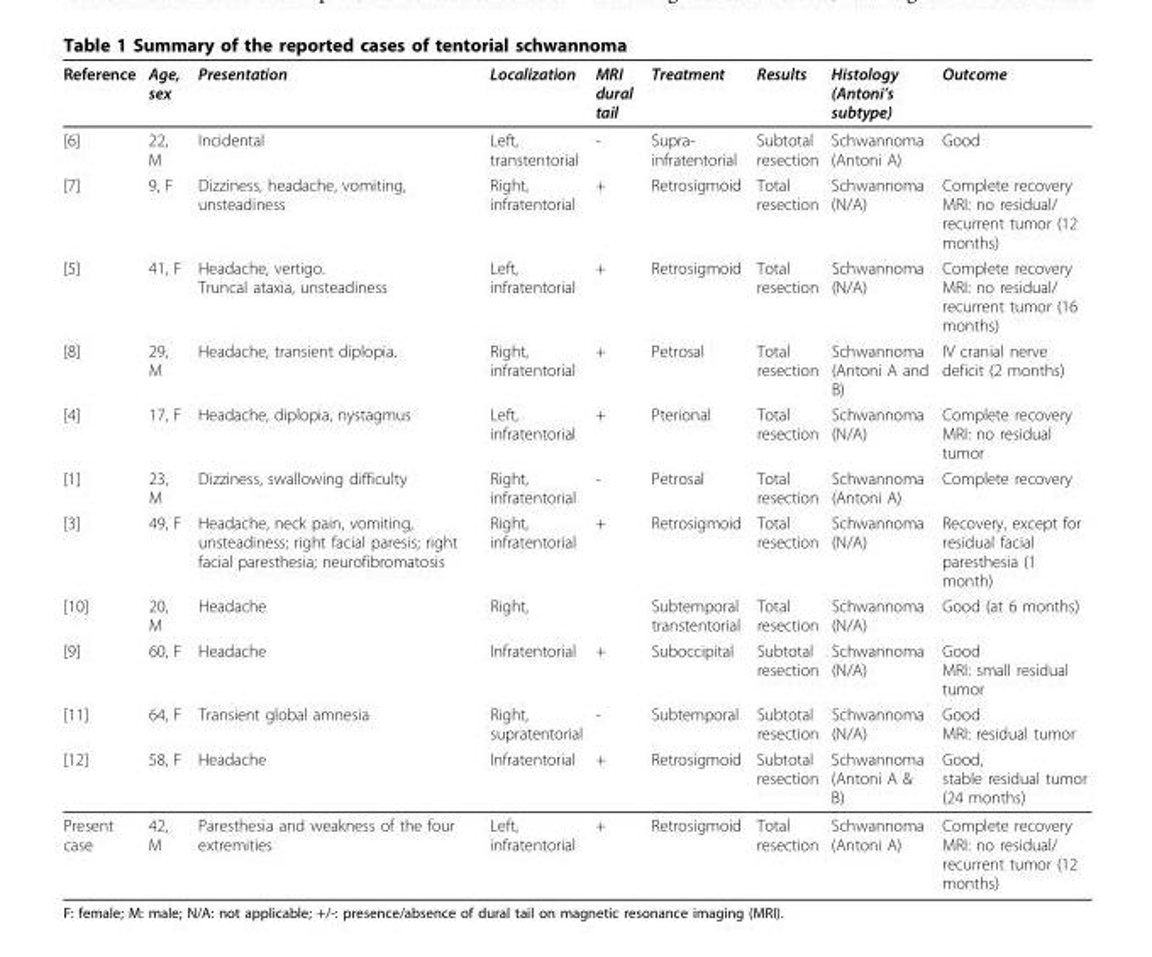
<table><thead><tr><td>Reference</td><td>Age, sex</td><td>Presentation</td><td>Localization</td><td>MRI dural tail</td><td>Treatment</td><td>Results</td><td>Histology (Antoni’s subtype)</td><td>Outcome</td></tr></thead><tbody><tr><td>[6]</td><td>22, M</td><td>Incidental</td><td>Left, transtentorial</td><td>-</td><td>Supra- infratentorial</td><td>Subtotal resection</td><td>Schwannoma (Antoni A)</td><td>Good</td></tr><tr><td>[7]</td><td>9, F</td><td>Dizziness, headache, vomiting, unsteadiness</td><td>Right, infratentorial</td><td>+</td><td>Retrosigmoid</td><td>Total resection</td><td>Schwannoma (N/A)</td><td>Complete recovery MRI: no residual/ recurrent tumor (12 months)</td></tr><tr><td>[5]</td><td>41, F</td><td>Headache, vertigo. Truncal ataxia, unsteadiness</td><td>Left, infratentorial</td><td>+</td><td>Retrosigmoid</td><td>Total resection</td><td>Schwannoma (N/A)</td><td>Complete recovery MRI: no residual/ recurrent tumor (16 months)</td></tr><tr><td>[8]</td><td>29, M</td><td>Headache, transient diplopia.</td><td>Right, infratentorial</td><td>+</td><td>Petrosal</td><td>Total resection</td><td>Schwannoma (Antoni A and B)</td><td>IV cranial nerve deficit (2 months)</td></tr><tr><td>[4]</td><td>17, F</td><td>Headache, diplopia, nystagmus</td><td>Left, infratentorial</td><td>+</td><td>Pterional</td><td>Total resection</td><td>Schwannoma (N/A)</td><td>Complete recovery MRI: no residual tumor</td></tr><tr><td>[1]</td><td>23, M</td><td>Dizziness, swallowing difficulty</td><td>Right, infratentorial</td><td>-</td><td>Petrosal</td><td>Total resection</td><td>Schwannoma (Antoni A)</td><td>Complete recovery</td></tr><tr><td>[3]</td><td>49, F</td><td>Headache, neck pain, vomiting, unsteadiness; right facial paresis; right facial paresthesia; neurofibromatosis</td><td>Right, infratentorial</td><td>+</td><td>Retrosigmoid</td><td>Total resection</td><td>Schwannoma (N/A)</td><td>Recovery, except for residual facial paresthesia (1 month)</td></tr><tr><td>[10]</td><td>20, M</td><td>Headache</td><td>Right,</td><td></td><td>Subtemporal transtentorial</td><td>Total resection</td><td>Schwannoma (N/A)</td><td>Good (at 6 months)</td></tr><tr><td>[9]</td><td>60, F</td><td>Headache</td><td>Infratentorial</td><td>+</td><td>Suboccipital</td><td>Subtotal resection</td><td>Schwannoma (N/A)</td><td>Good MRI: small residual tumor</td></tr><tr><td>[11]</td><td>64, F</td><td>Transient global amnesia</td><td>Right, supratentorial</td><td>-</td><td>Subtemporal</td><td>Subtotal resection</td><td>Schwannoma (N/A)</td><td>Good MRI: residual tumor</td></tr><tr><td>[12]</td><td>58, F</td><td>Headache</td><td>Infratentorial</td><td>+</td><td>Retrosigmoid</td><td>Subtotal resection</td><td>Schwannoma (Antoni A &amp; B)</td><td>Good, stable residual tumor (24 months)</td></tr><tr><td>Present case</td><td>42, M</td><td>Paresthesia and weakness of the four extremities</td><td>Left, infratentorial</td><td>+</td><td>Retrosigmoid</td><td>Total resection</td><td>Schwannoma (Antoni A)</td><td>Complete recovery MRI: no residual/ recurrent tumor (12 months)</td></tr></tbody></table>